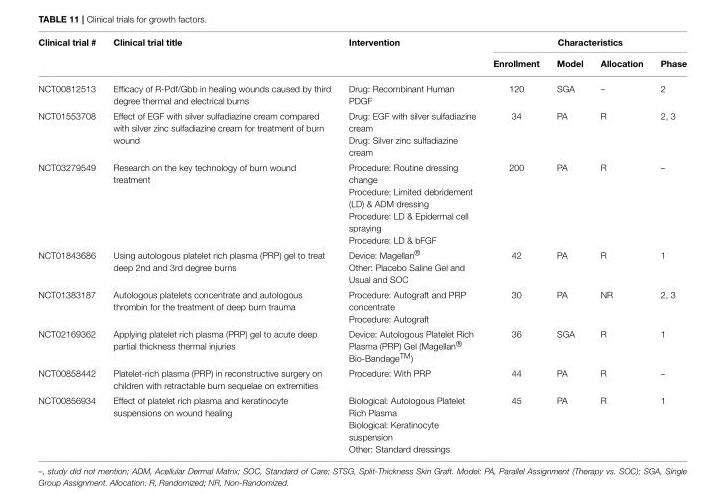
<table><thead><tr><td rowspan="2">Clinical trial #</td><td rowspan="2">Clinical trial title</td><td rowspan="2">Intervention</td><td colspan="4">Characteristics</td></tr><tr><td>Enrollment</td><td>Model</td><td>Allocation</td><td>Phase</td></tr></thead><tbody><tr><td>NCT00812513</td><td>Efficacy of R-Pdf/Gbb in healing wounds caused by third degree thermal and electrical burns</td><td>Drug: Recombinant Human PDGF</td><td>120</td><td>SGA</td><td>–</td><td>2</td></tr><tr><td>NCT01553708</td><td>Effect of EGF with silver sulfadiazine cream compared with silver zinc sulfadiazine cream for treatment of burn wound</td><td>Drug: EGF with silver sulfadiazine cream Drug: Silver zinc sulfadiazine cream</td><td>34</td><td>PA</td><td>R</td><td>2, 3</td></tr><tr><td>NCT03279549</td><td>Research on the key technology of burn wound treatment</td><td>Procedure: Routine dressing change Procedure: Limited debridement (LD) &amp; ADM dressing Procedure: LD &amp; Epidermal cell spraying Procedure: LD &amp; bFGF</td><td>200</td><td>PA</td><td>R</td><td>–</td></tr><tr><td>NCT01843686</td><td>Using autologous platelet rich plasma (PRP) gel to treat deep 2nd and 3rd degree burns</td><td>Device: Magellan® Other: Placebo Saline Gel and Usual and SOC</td><td>42</td><td>PA</td><td>R</td><td>1</td></tr><tr><td>NCT01383187</td><td>Autologous platelets concentrate and autologous thrombin for the treatment of deep burn trauma</td><td>Procedure: Autograft and PRP concentrate Procedure: Autograft</td><td>30</td><td>PA</td><td>NR</td><td>2, 3</td></tr><tr><td>NCT02169362</td><td>Applying platelet rich plasma (PRP) gel to acute deep partial thickness thermal injuries</td><td>Device: Autologous Platelet Rich Plasma (PRP) Gel (Magellan® Bio-BandageTM)</td><td>36</td><td>SGA</td><td>R</td><td>1</td></tr><tr><td>NCT00858442</td><td>Platelet-rich plasma (PRP) in reconstructive surgery on children with retractable burn sequelae on extremities</td><td>Procedure: With PRP</td><td>44</td><td>PA</td><td>R</td><td>–</td></tr><tr><td>NCT00856934</td><td>Effect of platelet rich plasma and keratinocyte suspensions on wound healing</td><td>Biological: Autologous Platelet Rich Plasma Biological: Keratinocyte suspension Other: Standard dressings</td><td>45</td><td>PA</td><td>R</td><td>1</td></tr></tbody></table>